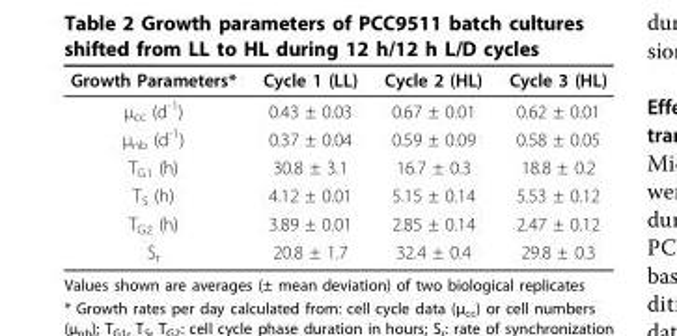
<table><thead><tr><td>Growth Parameters*</td><td>Cycle 1 (LL)</td><td>Cycle 2 (HL)</td><td>Cycle 3 (HL)</td></tr></thead><tbody><tr><td>μ<sub>cc</sub> (d<sup>-1</sup>)</td><td>0.43 ± 0.03</td><td>0.67 ± 0.01</td><td>0.62 ± 0.01</td></tr><tr><td>μ<sub>nb</sub> (d<sup>-1</sup>)</td><td>0.37 ± 0.04</td><td>0.59 ± 0.09</td><td>0.58 ± 0.05</td></tr><tr><td>T<sub>G1</sub> (h)</td><td>30.8 ± 3.1</td><td>16.7 ± 0.3</td><td>18.8 ± 0.2</td></tr><tr><td>T<sub>S</sub> (h)</td><td>4.12 ± 0.01</td><td>5.15 ± 0.14</td><td>5.53 ± 0.12</td></tr><tr><td>T<sub>G2</sub> (h)</td><td>3.89 ± 0.01</td><td>2.85 ± 0.14</td><td>2.47 ± 0.12</td></tr><tr><td>S<sub>r</sub></td><td>20.8 ± 1.7</td><td>32.4 ± 0.4</td><td>29.8 ± 0.3</td></tr></tbody></table>